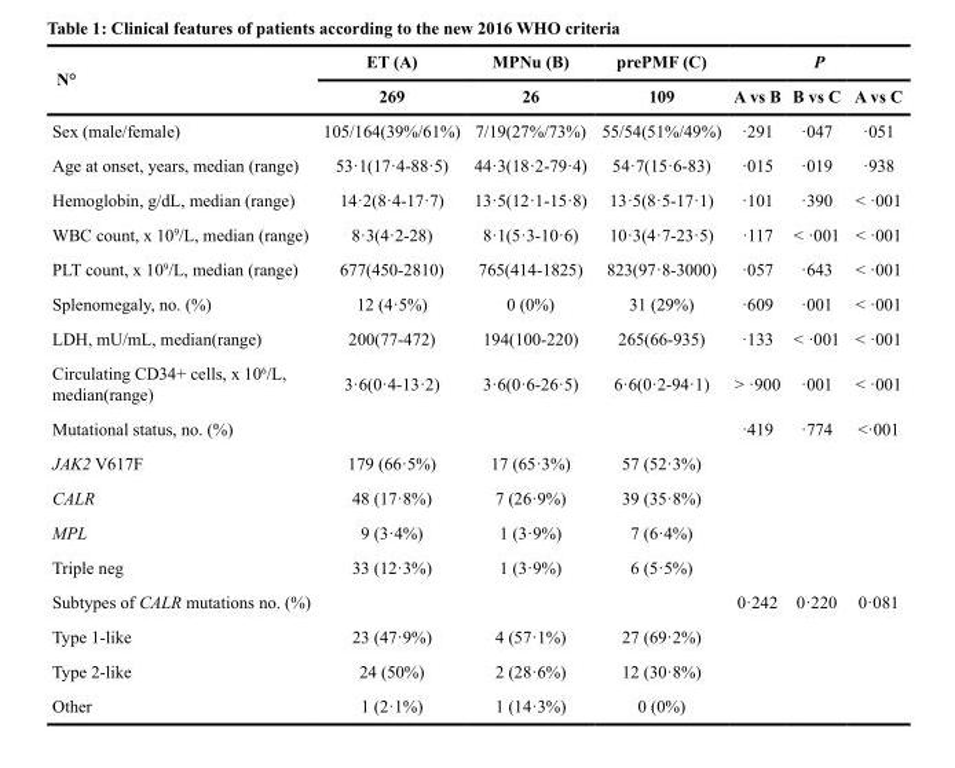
<table><thead><tr><td rowspan="2">N°</td><td rowspan="2">ET (A) 269</td><td rowspan="2">MPNu (B) 26</td><td rowspan="2">prePMF (C) 109</td><td colspan="3">P</td></tr><tr><td>A vs B</td><td>B vs C</td><td>A vs C</td></tr></thead><tbody><tr><td>Sex (male/female)</td><td>105/164(39%/61%)</td><td>7/19(27%/73%)</td><td>55/54(51%/49%)</td><td>·291</td><td>·047</td><td>·051</td></tr><tr><td>Age at onset, years, median (range)</td><td>53·1(17·4-88·5)</td><td>44·3(18·2-79·4)</td><td>54·7(15·6-83)</td><td>·015</td><td>·019</td><td>·938</td></tr><tr><td>Hemoglobin, g/dL, median (range)</td><td>14·2(8·4-17·7)</td><td>13·5(12·1-15·8)</td><td>13·5(8·5-17·1)</td><td>·101</td><td>·390</td><td>&lt; ·001</td></tr><tr><td>WBC count, x 10<sup>9</sup>/L, median (range)</td><td>8·3(4·2-28)</td><td>8·1(5·3-10·6)</td><td>10·3(4·7-23·5)</td><td>·117</td><td>&lt; ·001</td><td>&lt; ·001</td></tr><tr><td>PLT count, x 10<sup>9</sup>/L, median (range)</td><td>677(450-2810)</td><td>765(414-1825)</td><td>823(97·8-3000)</td><td>·057</td><td>·643</td><td>&lt; ·001</td></tr><tr><td>Splenomegaly, no. (%)</td><td>12 (4·5%)</td><td>0 (0%)</td><td>31 (29%)</td><td>·609</td><td>·001</td><td>&lt; ·001</td></tr><tr><td>LDH, mU/mL, median(range)</td><td>200(77-472)</td><td>194(100-220)</td><td>265(66-935)</td><td>·133</td><td>&lt; ·001</td><td>&lt; ·001</td></tr><tr><td>Circulating CD34+ cells, x 10<sup>6</sup>/L, median(range)</td><td>3·6(0·4-13·2)</td><td>3·6(0·6-26·5)</td><td>6·6(0·2-94·1)</td><td>&gt; ·900</td><td>·001</td><td>&lt; ·001</td></tr><tr><td>Mutational status, no. (%)</td><td></td><td></td><td></td><td>·419</td><td>·774</td><td>&lt;·001</td></tr><tr><td>JAK2 V617F</td><td>179 (66·5%)</td><td>17 (65·3%)</td><td>57 (52·3%)</td><td></td><td></td><td></td></tr><tr><td>CALR</td><td>48 (17·8%)</td><td>7 (26·9%)</td><td>39 (35·8%)</td><td></td><td></td><td></td></tr><tr><td>MPL</td><td>9 (3·4%)</td><td>1 (3·9%)</td><td>7 (6·4%)</td><td></td><td></td><td></td></tr><tr><td>Triple neg</td><td>33 (12·3%)</td><td>1 (3·9%)</td><td>6 (5·5%)</td><td></td><td></td><td></td></tr><tr><td>Subtypes of CALR mutations no. (%)</td><td></td><td></td><td></td><td>0·242</td><td>0·220</td><td>0·081</td></tr><tr><td>Type 1-like</td><td>23 (47·9%)</td><td>4 (57·1%)</td><td>27 (69·2%)</td><td></td><td></td><td></td></tr><tr><td>Type 2-like</td><td>24 (50%)</td><td>2 (28·6%)</td><td>12 (30·8%)</td><td></td><td></td><td></td></tr><tr><td>Other</td><td>1 (2·1%)</td><td>1 (14·3%)</td><td>0 (0%)</td><td></td><td></td><td></td></tr></tbody></table>